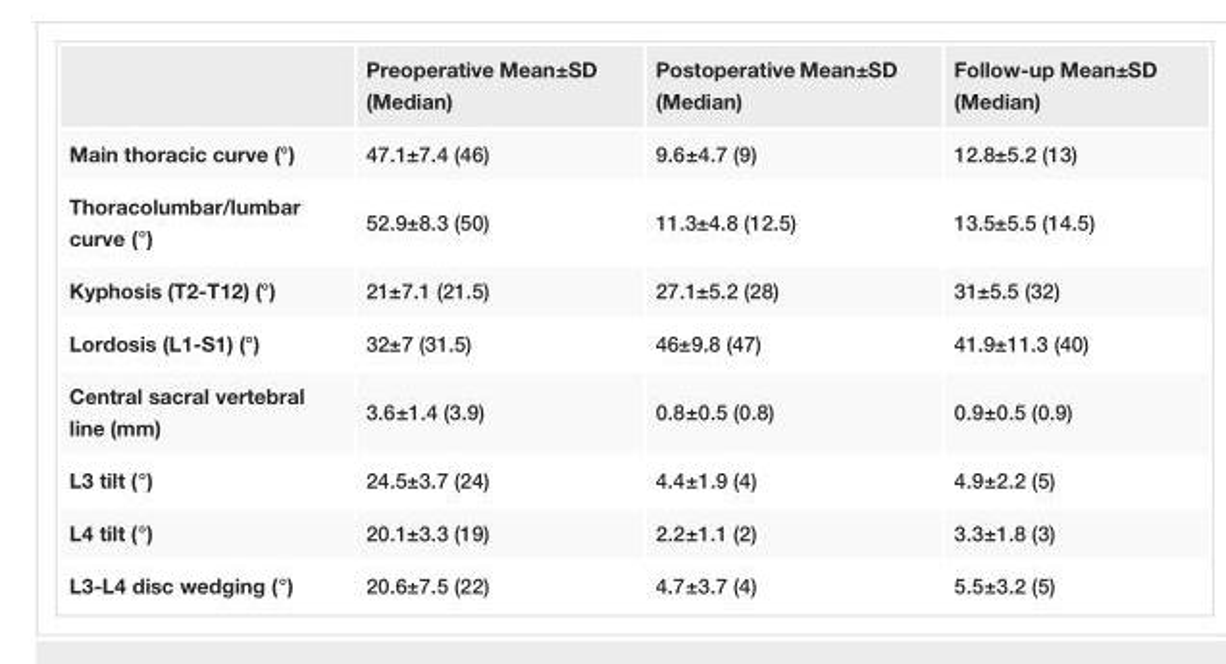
<table><thead><tr><td></td><td>Preoperative Mean±SD (Median)</td><td>Postoperative Mean±SD (Median)</td><td>Follow-up Mean±SD (Median)</td></tr></thead><tbody><tr><td>Main thoracic curve (°)</td><td>47.1±7.4 (46)</td><td>9.6±4.7 (9)</td><td>12.8±5.2 (13)</td></tr><tr><td>Thoracolumbar/lumbar curve (°)</td><td>52.9±8.3 (50)</td><td>11.3±4.8 (12.5)</td><td>13.5±5.5 (14.5)</td></tr><tr><td>Kyphosis (T2-T12) (°)</td><td>21±7.1 (21.5)</td><td>27.1±5.2 (28)</td><td>31±5.5 (32)</td></tr><tr><td>Lordosis (L1-S1) (°)</td><td>32±7 (31.5)</td><td>46±9.8 (47)</td><td>41.9±11.3 (40)</td></tr><tr><td>Central sacral vertebral line (mm)</td><td>3.6±1.4 (3.9)</td><td>0.8±0.5 (0.8)</td><td>0.9±0.5 (0.9)</td></tr><tr><td>L3 tilt (°)</td><td>24.5±3.7 (24)</td><td>4.4±1.9 (4)</td><td>4.9±2.2 (5)</td></tr><tr><td>L4 tilt (°)</td><td>20.1±3.3 (19)</td><td>2.2±1.1 (2)</td><td>3.3±1.8 (3)</td></tr><tr><td>L3-L4 disc wedging (°)</td><td>20.6±7.5 (22)</td><td>4.7±3.7 (4)</td><td>5.5±3.2 (5)</td></tr></tbody></table>